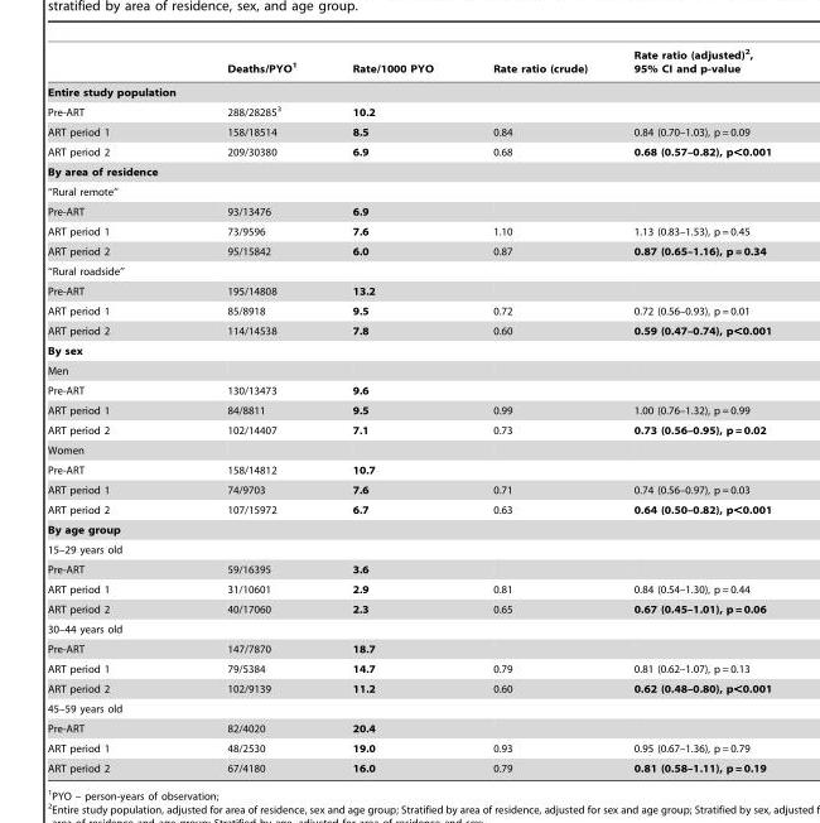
<table><thead><tr><td></td><td>Deaths/PYO<sup>1</sup></td><td>Rate/1000 PYO</td><td>Rate ratio (crude)</td><td>Rate ratio (adjusted)<sup>2</sup>, 95% CI and p-value</td></tr></thead><tbody><tr><td colspan="5">Entire study population</td></tr><tr><td>Pre-ART</td><td>288/28285<sup>3</sup></td><td>10.2</td><td></td><td></td></tr><tr><td>ART period 1</td><td>158/18514</td><td>8.5</td><td>0.84</td><td>0.84 (0.70–1.03), p = 0.09</td></tr><tr><td>ART period 2</td><td>209/30380</td><td>6.9</td><td>0.68</td><td>0.68 (0.57–0.82), p&lt;0.001</td></tr><tr><td colspan="5">By area of residence</td></tr><tr><td colspan="5">‘‘Rural remote’’</td></tr><tr><td>Pre-ART</td><td>93/13476</td><td>6.9</td><td></td><td></td></tr><tr><td>ART period 1</td><td>73/9596</td><td>7.6</td><td>1.10</td><td>1.13 (0.83–1.53), p = 0.45</td></tr><tr><td>ART period 2</td><td>95/15842</td><td>6.0</td><td>0.87</td><td>0.87 (0.65–1.16), p = 0.34</td></tr><tr><td colspan="5">‘‘Rural roadside’’</td></tr><tr><td>Pre-ART</td><td>195/14808</td><td>13.2</td><td></td><td></td></tr><tr><td>ART period 1</td><td>85/8918</td><td>9.5</td><td>0.72</td><td>0.72 (0.56–0.93), p = 0.01</td></tr><tr><td>ART period 2</td><td>114/14538</td><td>7.8</td><td>0.60</td><td>0.59 (0.47–0.74), p&lt;0.001</td></tr><tr><td colspan="5">By sex</td></tr><tr><td colspan="5">Men</td></tr><tr><td>Pre-ART</td><td>130/13473</td><td>9.6</td><td></td><td></td></tr><tr><td>ART period 1</td><td>84/8811</td><td>9.5</td><td>0.99</td><td>1.00 (0.76–1.32), p = 0.99</td></tr><tr><td>ART period 2</td><td>102/14407</td><td>7.1</td><td>0.73</td><td>0.73 (0.56–0.95), p = 0.02</td></tr><tr><td colspan="5">Women</td></tr><tr><td>Pre-ART</td><td>158/14812</td><td>10.7</td><td></td><td></td></tr><tr><td>ART period 1</td><td>74/9703</td><td>7.6</td><td>0.71</td><td>0.74 (0.56–0.97), p = 0.03</td></tr><tr><td>ART period 2</td><td>107/15972</td><td>6.7</td><td>0.63</td><td>0.64 (0.50–0.82), p&lt;0.001</td></tr><tr><td colspan="5">By age group</td></tr><tr><td colspan="5">15–29 years old</td></tr><tr><td>Pre-ART</td><td>59/16395</td><td>3.6</td><td></td><td></td></tr><tr><td>ART period 1</td><td>31/10601</td><td>2.9</td><td>0.81</td><td>0.84 (0.54–1.30), p = 0.44</td></tr><tr><td>ART period 2</td><td>40/17060</td><td>2.3</td><td>0.65</td><td>0.67 (0.45–1.01), p = 0.06</td></tr><tr><td colspan="5">30–44 years old</td></tr><tr><td>Pre-ART</td><td>147/7870</td><td>18.7</td><td></td><td></td></tr><tr><td>ART period 1</td><td>79/5384</td><td>14.7</td><td>0.79</td><td>0.81 (0.62–1.07), p = 0.13</td></tr><tr><td>ART period 2</td><td>102/9139</td><td>11.2</td><td>0.60</td><td>0.62 (0.48–0.80), p&lt;0.001</td></tr><tr><td colspan="5">45–59 years old</td></tr><tr><td>Pre-ART</td><td>82/4020</td><td>20.4</td><td></td><td></td></tr><tr><td>ART period 1</td><td>48/2530</td><td>19.0</td><td>0.93</td><td>0.95 (0.67–1.36), p = 0.79</td></tr><tr><td>ART period 2</td><td>67/4180</td><td>16.0</td><td>0.79</td><td>0.81 (0.58–1.11), p = 0.19</td></tr></tbody></table>